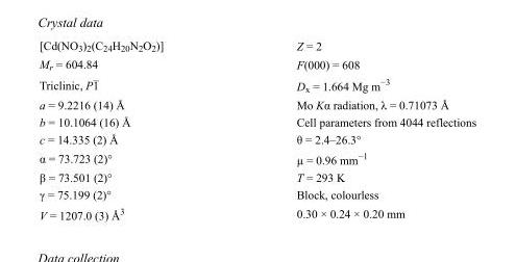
<table><tbody><tr><td>[Cd(NO<sub>3</sub>)<sub>2</sub>(C<sub>24</sub>H<sub>20</sub>N<sub>2</sub>O<sub>2</sub>)]</td><td>Z = 2</td></tr><tr><td>M<sub>r</sub> = 604.84</td><td>F(000) = 608</td></tr><tr><td>Triclinic, P1</td><td>D<sub>x</sub> = 1.664 Mg m<sup>−3</sup></td></tr><tr><td>a = 9.2216 (14) Å</td><td>Mo Kα radiation, λ = 0.71073 Å</td></tr><tr><td>b = 10.1064 (16) Å</td><td>Cell parameters from 4044 reflections</td></tr><tr><td>c = 14.335 (2) Å</td><td>θ = 2.4–26.3°</td></tr><tr><td>α = 73.723 (2)°</td><td>µ = 0.96 mm<sup>−1</sup></td></tr><tr><td>β = 73.501 (2)°</td><td>T = 293 K</td></tr><tr><td>γ = 75.199 (2)°</td><td>Block, colourless</td></tr><tr><td>V = 1207.0 (3) Å<sup>3</sup></td><td>0.30 × 0.24 × 0.20 mm</td></tr></tbody></table>